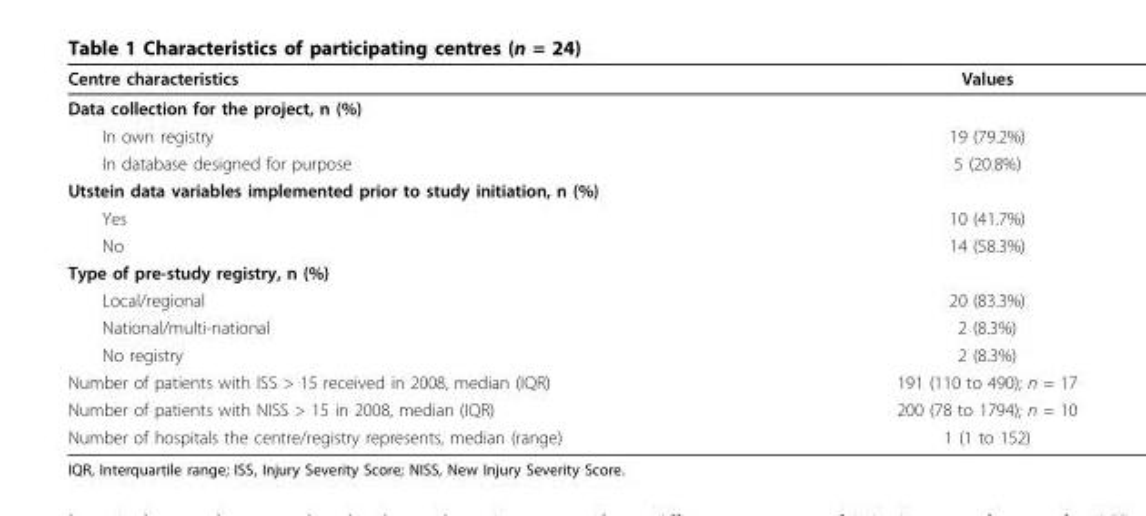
<table><thead><tr><td>Centre characteristics</td><td>Values</td></tr></thead><tbody><tr><td colspan="2">Data collection for the project, n (%)</td></tr><tr><td>In own registry</td><td>19 (79.2%)</td></tr><tr><td>In database designed for purpose</td><td>5 (20.8%)</td></tr><tr><td colspan="2">Utstein data variables implemented prior to study initiation, n (%)</td></tr><tr><td>Yes</td><td>10 (41.7%)</td></tr><tr><td>No</td><td>14 (58.3%)</td></tr><tr><td colspan="2">Type of pre-study registry, n (%)</td></tr><tr><td>Local/regional</td><td>20 (83.3%)</td></tr><tr><td>National/multi-national</td><td>2 (8.3%)</td></tr><tr><td>No registry</td><td>2 (8.3%)</td></tr><tr><td>Number of patients with ISS &gt; 15 received in 2008, median (IQR)</td><td>191 (110 to 490); n = 17</td></tr><tr><td>Number of patients with NISS &gt; 15 in 2008, median (IQR)</td><td>200 (78 to 1794); n = 10</td></tr><tr><td>Number of hospitals the centre/registry represents, median (range)</td><td>1 (1 to 152)</td></tr></tbody></table>